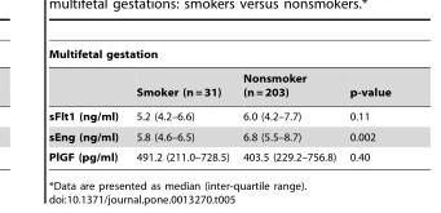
<table><thead><tr><td colspan="4">Multifetal gestation</td></tr><tr><td></td><td>Smoker (n = 31)</td><td>Nonsmoker (n = 203)</td><td>p-value</td></tr></thead><tbody><tr><td>sFlt1 (ng/ml)</td><td>5.2 (4.2–6.6)</td><td>6.0 (4.2–7.7)</td><td>0.11</td></tr><tr><td>sEng (ng/ml)</td><td>5.8 (4.6–6.5)</td><td>6.8 (5.5–8.7)</td><td>0.002</td></tr><tr><td>PlGF (pg/ml)</td><td>491.2 (211.0–728.5)</td><td>403.5 (229.2–756.8)</td><td>0.40</td></tr></tbody></table>